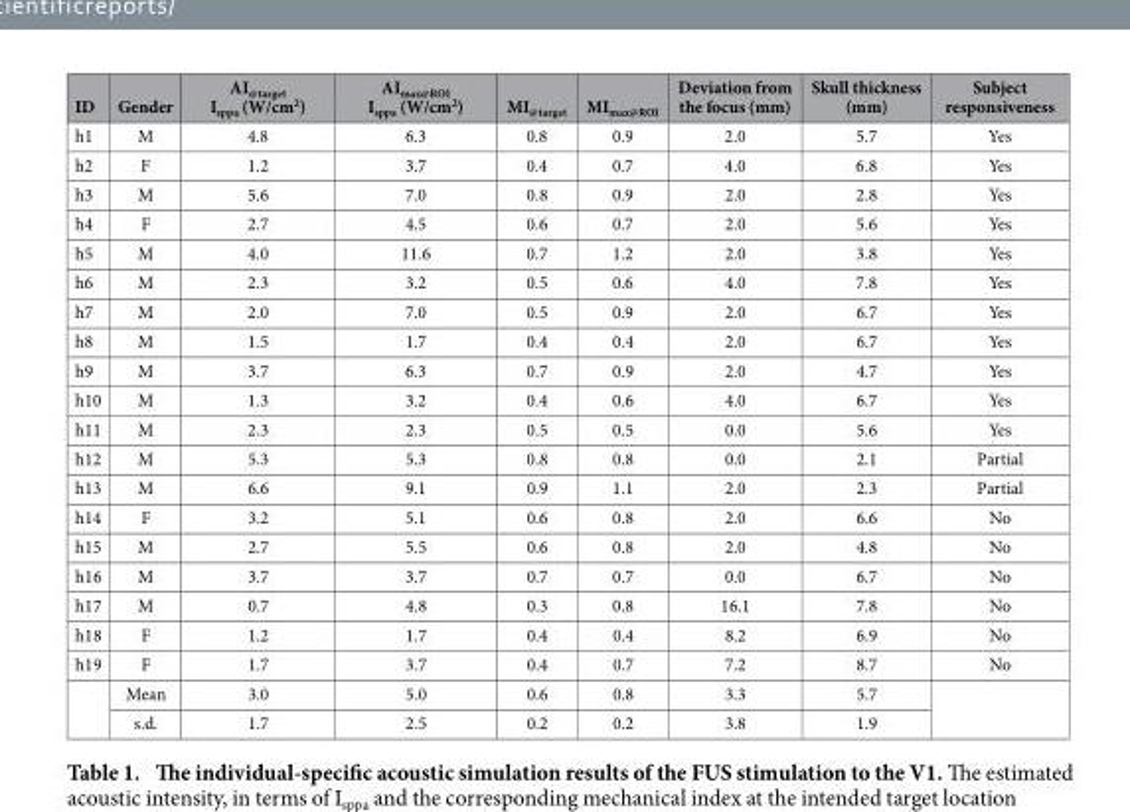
<table><thead><tr><td>ID</td><td>Gender</td><td>AI<sub>@target</sub> I<sub>sppa</sub> (W/cm<sup>2</sup>)</td><td>AI<sub>max@ROI</sub> I<sub>sppa</sub> (W/cm<sup>2</sup>)</td><td>MI<sub>@target</sub></td><td>MI<sub>max@ROI</sub></td><td>Deviation from the focus (mm)</td><td>Skull thickness (mm)</td><td>Subject responsiveness</td></tr></thead><tbody><tr><td>h1</td><td>M</td><td>4.8</td><td>6.3</td><td>0.8</td><td>0.9</td><td>2.0</td><td>5.7</td><td>Yes</td></tr><tr><td>h2</td><td>F</td><td>1.2</td><td>3.7</td><td>0.4</td><td>0.7</td><td>4.0</td><td>6.8</td><td>Yes</td></tr><tr><td>h3</td><td>M</td><td>5.6</td><td>7.0</td><td>0.8</td><td>0.9</td><td>2.0</td><td>2.8</td><td>Yes</td></tr><tr><td>h4</td><td>F</td><td>2.7</td><td>4.5</td><td>0.6</td><td>0.7</td><td>2.0</td><td>5.6</td><td>Yes</td></tr><tr><td>h5</td><td>M</td><td>4.0</td><td>11.6</td><td>0.7</td><td>1.2</td><td>2.0</td><td>3.8</td><td>Yes</td></tr><tr><td>h6</td><td>M</td><td>2.3</td><td>3.2</td><td>0.5</td><td>0.6</td><td>4.0</td><td>7.8</td><td>Yes</td></tr><tr><td>h7</td><td>M</td><td>2.0</td><td>7.0</td><td>0.5</td><td>0.9</td><td>2.0</td><td>6.7</td><td>Yes</td></tr><tr><td>h8</td><td>M</td><td>1.5</td><td>1.7</td><td>0.4</td><td>0.4</td><td>2.0</td><td>6.7</td><td>Yes</td></tr><tr><td>h9</td><td>M</td><td>3.7</td><td>6.3</td><td>0.7</td><td>0.9</td><td>2.0</td><td>4.7</td><td>Yes</td></tr><tr><td>h10</td><td>M</td><td>1.3</td><td>3.2</td><td>0.4</td><td>0.6</td><td>4.0</td><td>6.7</td><td>Yes</td></tr><tr><td>h11</td><td>M</td><td>2.3</td><td>2.3</td><td>0.5</td><td>0.5</td><td>0.0</td><td>5.6</td><td>Yes</td></tr><tr><td>h12</td><td>M</td><td>5.3</td><td>5.3</td><td>0.8</td><td>0.8</td><td>0.0</td><td>2.1</td><td>Partial</td></tr><tr><td>h13</td><td>M</td><td>6.6</td><td>9.1</td><td>0.9</td><td>1.1</td><td>2.0</td><td>2.3</td><td>Partial</td></tr><tr><td>h14</td><td>F</td><td>3.2</td><td>5.1</td><td>0.6</td><td>0.8</td><td>2.0</td><td>6.6</td><td>No</td></tr><tr><td>h15</td><td>M</td><td>2.7</td><td>5.5</td><td>0.6</td><td>0.8</td><td>2.0</td><td>4.8</td><td>No</td></tr><tr><td>h16</td><td>M</td><td>3.7</td><td>3.7</td><td>0.7</td><td>0.7</td><td>0.0</td><td>6.7</td><td>No</td></tr><tr><td>h17</td><td>M</td><td>0.7</td><td>4.8</td><td>0.3</td><td>0.8</td><td>16.1</td><td>7.8</td><td>No</td></tr><tr><td>h18</td><td>F</td><td>1.2</td><td>1.7</td><td>0.4</td><td>0.4</td><td>8.2</td><td>6.9</td><td>No</td></tr><tr><td rowspan="3">h19</td><td>F</td><td>1.7</td><td>3.7</td><td>0.4</td><td>0.7</td><td>7.2</td><td>8.7</td><td>No</td></tr><tr><td>Mean</td><td>3.0</td><td>5.0</td><td>0.6</td><td>0.8</td><td>3.3</td><td>5.7</td><td rowspan="2"></td></tr><tr><td>s.d.</td><td>1.7</td><td>2.5</td><td>0.2</td><td>0.2</td><td>3.8</td><td>1.9</td></tr></tbody></table>